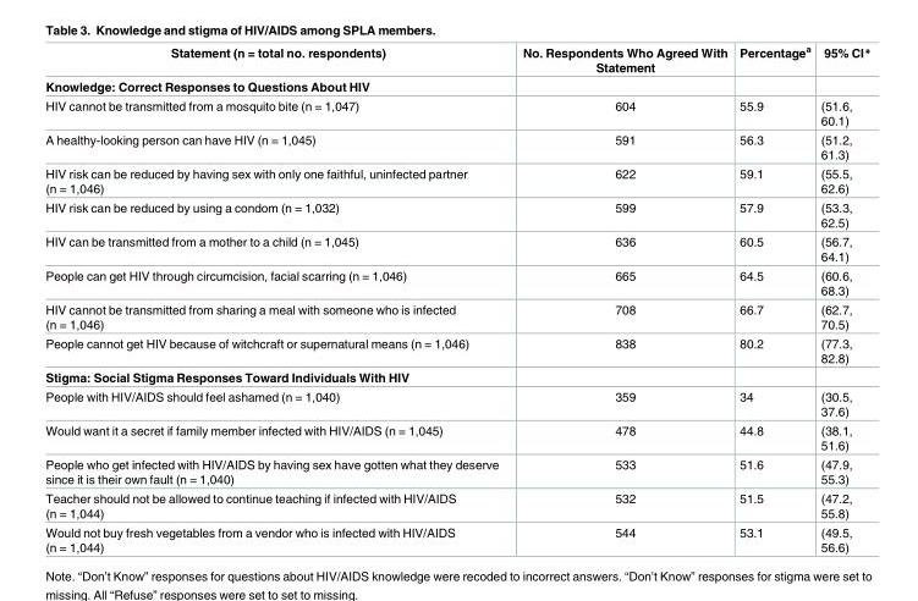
<table><thead><tr><td>Statement (n = total no. respondents)</td><td>No. Respondents Who Agreed With Statement</td><td>Percentage<sup>a</sup></td><td>95% CI*</td></tr></thead><tbody><tr><td colspan="4">Knowledge: Correct Responses to Questions About HIV</td></tr><tr><td>HIV cannot be transmitted from a mosquito bite (n = 1,047)</td><td>604</td><td>55.9</td><td>(51.6, 60.1)</td></tr><tr><td>A healthy-looking person can have HIV (n = 1,045)</td><td>591</td><td>56.3</td><td>(51.2, 61.3)</td></tr><tr><td>HIV risk can be reduced by having sex with only one faithful, uninfected partner (n = 1,046)</td><td>622</td><td>59.1</td><td>(55.5, 62.6)</td></tr><tr><td>HIV risk can be reduced by using a condom (n = 1,032)</td><td>599</td><td>57.9</td><td>(53.3, 62.5)</td></tr><tr><td>HIV can be transmitted from a mother to a child (n = 1,045)</td><td>636</td><td>60.5</td><td>(56.7, 64.1)</td></tr><tr><td>People can get HIV through circumcision, facial scarring (n = 1,046)</td><td>665</td><td>64.5</td><td>(60.6, 68.3)</td></tr><tr><td>HIV cannot be transmitted from sharing a meal with someone who is infected (n = 1,046)</td><td>708</td><td>66.7</td><td>(62.7, 70.5)</td></tr><tr><td>People cannot get HIV because of witchcraft or supernatural means (n = 1,046)</td><td>838</td><td>80.2</td><td>(77.3, 82.8)</td></tr><tr><td colspan="4">Stigma: Social Stigma Responses Toward Individuals With HIV</td></tr><tr><td>People with HIV/AIDS should feel ashamed (n = 1,040)</td><td>359</td><td>34</td><td>(30.5, 37.6)</td></tr><tr><td>Would want it a secret if family member infected with HIV/AIDS (n = 1,045)</td><td>478</td><td>44.8</td><td>(38.1, 51.6)</td></tr><tr><td>People who get infected with HIV/AIDS by having sex have gotten what they deserve since it is their own fault (n = 1,040)</td><td>533</td><td>51.6</td><td>(47.9, 55.3)</td></tr><tr><td>Teacher should not be allowed to continue teaching if infected with HIV/AIDS (n = 1,044)</td><td>532</td><td>51.5</td><td>(47.2, 55.8)</td></tr><tr><td>Would not buy fresh vegetables from a vendor who is infected with HIV/AIDS (n = 1,044)</td><td>544</td><td>53.1</td><td>(49.5, 56.6)</td></tr></tbody></table>